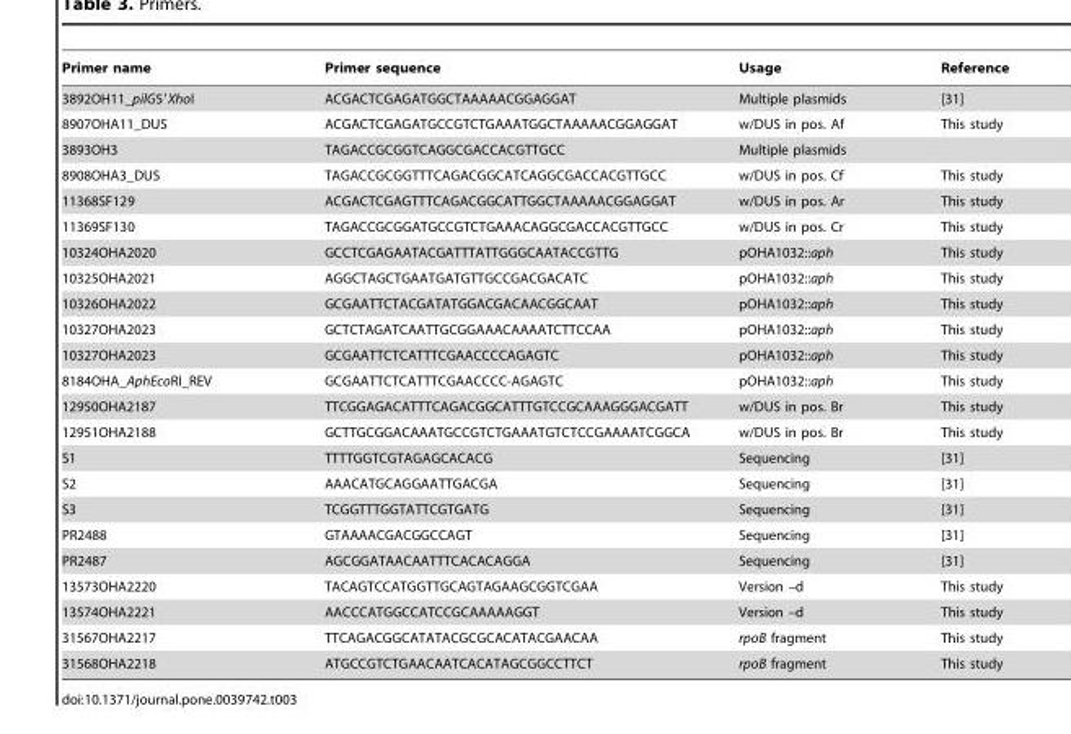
<table><thead><tr><td>Primer name</td><td>Primer sequence</td><td>Usage</td><td>Reference</td></tr></thead><tbody><tr><td>3892OH11_pilG5′XhoI</td><td>ACGACTCGAGATGGCTAAAAACGGAGGAT</td><td>Multiple plasmids</td><td>[31]</td></tr><tr><td>8907OHA11_DUS</td><td>ACGACTCGAGATGCCGTCTGAAATGGCTAAAAACGGAGGAT</td><td>w/DUS in pos. Af</td><td>This study</td></tr><tr><td>3893OH3</td><td>TAGACCGCGGTCAGGCGACCACGTTGCC</td><td>Multiple plasmids</td><td></td></tr><tr><td>8908OHA3_DUS</td><td>TAGACCGCGGTTTCAGACGGCATCAGGCGACCACGTTGCC</td><td>w/DUS in pos. Cf</td><td>This study</td></tr><tr><td>11368SF129</td><td>ACGACTCGAGTTTCAGACGGCATTGGCTAAAAACGGAGGAT</td><td>w/DUS in pos. Ar</td><td>This study</td></tr><tr><td>11369SF130</td><td>TAGACCGCGGATGCCGTCTGAAACAGGCGACCACGTTGCC</td><td>w/DUS in pos. Cr</td><td>This study</td></tr><tr><td>10324OHA2020</td><td>GCCTCGAGAATACGATTTATTGGGCAATACCGTTG</td><td>pOHA1032::aph</td><td>This study</td></tr><tr><td>10325OHA2021</td><td>AGGCTAGCTGAATGATGTTGCCGACGACATC</td><td>pOHA1032::aph</td><td>This study</td></tr><tr><td>10326OHA2022</td><td>GCGAATTCTACGATATGGACGACAACGGCAAT</td><td>pOHA1032::aph</td><td>This study</td></tr><tr><td>10327OHA2023</td><td>GCTCTAGATCAATTGCGGAAACAAAATCTTCCAA</td><td>pOHA1032::aph</td><td>This study</td></tr><tr><td>10327OHA2023</td><td>GCGAATTCTCATTTCGAACCCCAGAGTC</td><td>pOHA1032::aph</td><td>This study</td></tr><tr><td>8184OHA_AphEcoRI_REV</td><td>GCGAATTCTCATTTCGAACCCC-AGAGTC</td><td>pOHA1032::aph</td><td>This study</td></tr><tr><td>12950OHA2187</td><td>TTCGGAGACATTTCAGACGGCATTTGTCCGCAAAGGGACGATT</td><td>w/DUS in pos. Br</td><td>This study</td></tr><tr><td>12951OHA2188</td><td>GCTTGCGGACAAATGCCGTCTGAAATGTCTCCGAAAATCGGCA</td><td>w/DUS in pos. Br</td><td>This study</td></tr><tr><td>S1</td><td>TTTTGGTCGTAGAGCACACG</td><td>Sequencing</td><td>[31]</td></tr><tr><td>S2</td><td>AAACATGCAGGAATTGACGA</td><td>Sequencing</td><td>[31]</td></tr><tr><td>S3</td><td>TCGGTTTGGTATTCGTGATG</td><td>Sequencing</td><td>[31]</td></tr><tr><td>PR2488</td><td>GTAAAACGACGGCCAGT</td><td>Sequencing</td><td>[31]</td></tr><tr><td>PR2487</td><td>AGCGGATAACAATTTCACACAGGA</td><td>Sequencing</td><td>[31]</td></tr><tr><td>13573OHA2220</td><td>TACAGTCCATGGTTGCAGTAGAAGCGGTCGAA</td><td>Version –d</td><td>This study</td></tr><tr><td>13574OHA2221</td><td>AACCCATGGCCATCCGCAAAAAGGT</td><td>Version –d</td><td>This study</td></tr><tr><td>31567OHA2217</td><td>TTCAGACGGCATATACGCGCACATACGAACAA</td><td>rpoB fragment</td><td>This study</td></tr><tr><td>31568OHA2218</td><td>ATGCCGTCTGAACAATCACATAGCGGCCTTCT</td><td>rpoB fragment</td><td>This study</td></tr></tbody></table>